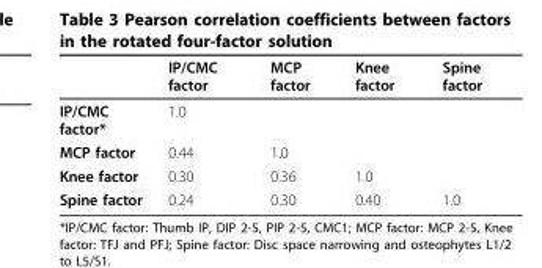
<table><thead><tr><td></td><td>IP/CMC factor</td><td>MCP factor</td><td>Knee factor</td><td>Spine factor</td></tr></thead><tbody><tr><td>IP/CMC factor*</td><td>1.0</td><td></td><td></td><td></td></tr><tr><td>MCP factor</td><td>0.44</td><td>1.0</td><td></td><td></td></tr><tr><td>Knee factor</td><td>0.30</td><td>0.36</td><td>1.0</td><td></td></tr><tr><td>Spine factor</td><td>0.24</td><td>0.30</td><td>0.40</td><td>1.0</td></tr></tbody></table>